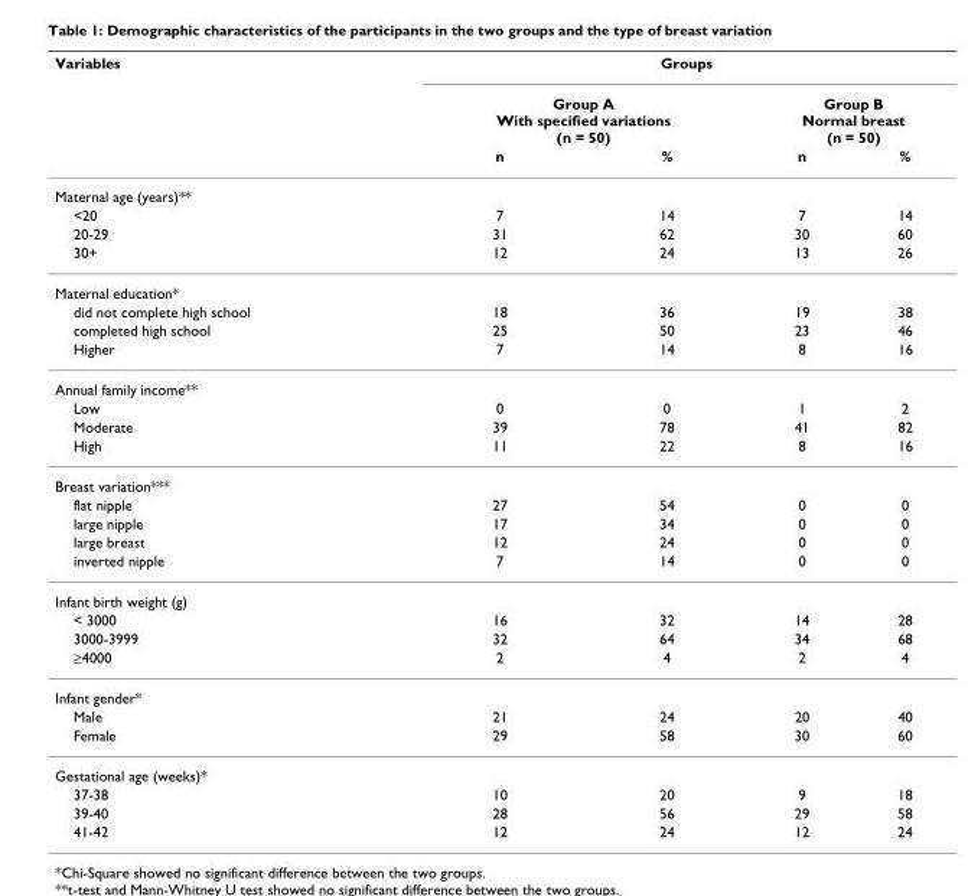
<table><thead><tr><td rowspan="3">Variables</td><td colspan="4">Groups</td></tr><tr><td colspan="2">Group A With specified variations (n = 50)</td><td colspan="2">Group B Normal breast (n = 50)</td></tr><tr><td>n</td><td>%</td><td>n</td><td>%</td></tr></thead><tbody><tr><td colspan="5">Maternal age (years)**</td></tr><tr><td>&lt;20</td><td>7</td><td>14</td><td>7</td><td>14</td></tr><tr><td>20-29</td><td>31</td><td>62</td><td>30</td><td>60</td></tr><tr><td>30+</td><td>12</td><td>24</td><td>13</td><td>26</td></tr><tr><td colspan="5">Maternal education*</td></tr><tr><td>did not complete high school</td><td>18</td><td>36</td><td>19</td><td>38</td></tr><tr><td>completed high school</td><td>25</td><td>50</td><td>23</td><td>46</td></tr><tr><td>Higher</td><td>7</td><td>14</td><td>8</td><td>16</td></tr><tr><td colspan="5">Annual family income**</td></tr><tr><td>Low</td><td>0</td><td>0</td><td>1</td><td>2</td></tr><tr><td>Moderate</td><td>39</td><td>78</td><td>41</td><td>82</td></tr><tr><td>High</td><td>11</td><td>22</td><td>8</td><td>16</td></tr><tr><td colspan="5">Breast variation***</td></tr><tr><td>flat nipple</td><td>27</td><td>54</td><td>0</td><td>0</td></tr><tr><td>large nipple</td><td>17</td><td>34</td><td>0</td><td>0</td></tr><tr><td>large breast</td><td>12</td><td>24</td><td>0</td><td>0</td></tr><tr><td>inverted nipple</td><td>7</td><td>14</td><td>0</td><td>0</td></tr><tr><td colspan="5">Infant birth weight (g)</td></tr><tr><td>&lt; 3000</td><td>16</td><td>32</td><td>14</td><td>28</td></tr><tr><td>3000-3999</td><td>32</td><td>64</td><td>34</td><td>68</td></tr><tr><td>≥4000</td><td>2</td><td>4</td><td>2</td><td>4</td></tr><tr><td colspan="5">Infant gender*</td></tr><tr><td>Male</td><td>21</td><td>24</td><td>20</td><td>40</td></tr><tr><td>Female</td><td>29</td><td>58</td><td>30</td><td>60</td></tr><tr><td colspan="5">Gestational age (weeks)*</td></tr><tr><td>37-38</td><td>10</td><td>20</td><td>9</td><td>18</td></tr><tr><td>39-40</td><td>28</td><td>56</td><td>29</td><td>58</td></tr><tr><td>41-42</td><td>12</td><td>24</td><td>12</td><td>24</td></tr></tbody></table>